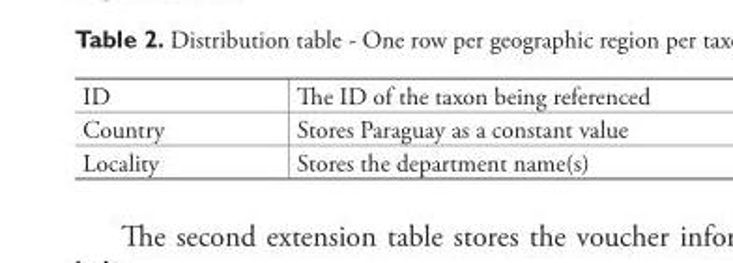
<table><tbody><tr><td>ID</td><td>Th e ID of the taxon being referenced</td></tr><tr><td>Country</td><td>Stores Paraguay as a constant value</td></tr><tr><td>Locality</td><td>Stores the department name(s)</td></tr></tbody></table>